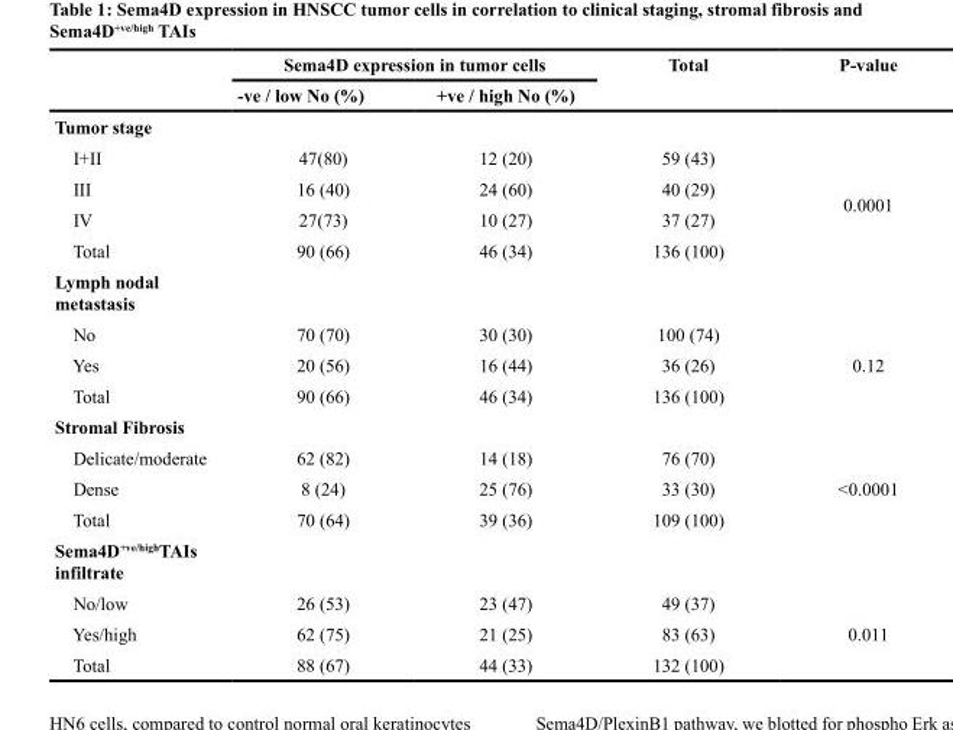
<table><thead><tr><td rowspan="2"></td><td colspan="2">Sema4D expression in tumor cells</td><td rowspan="2">Total</td><td rowspan="2">P-value</td></tr><tr><td>-ve / low No (%)</td><td>+ve / high No (%)</td></tr></thead><tbody><tr><td colspan="5">Tumor stage</td></tr><tr><td>I+II</td><td>47(80)</td><td>12 (20)</td><td>59 (43)</td><td rowspan="4">0.0001</td></tr><tr><td>III</td><td>16 (40)</td><td>24 (60)</td><td>40 (29)</td></tr><tr><td>IV</td><td>27(73)</td><td>10 (27)</td><td>37 (27)</td></tr><tr><td>Total</td><td>90 (66)</td><td>46 (34)</td><td>136 (100)</td></tr><tr><td colspan="5">Lymph nodal metastasis</td></tr><tr><td>No</td><td>70 (70)</td><td>30 (30)</td><td>100 (74)</td><td rowspan="3">0.12</td></tr><tr><td>Yes</td><td>20 (56)</td><td>16 (44)</td><td>36 (26)</td></tr><tr><td>Total</td><td>90 (66)</td><td>46 (34)</td><td>136 (100)</td></tr><tr><td colspan="5">Stromal Fibrosis</td></tr><tr><td>Delicate/moderate</td><td>62 (82)</td><td>14 (18)</td><td>76 (70)</td><td rowspan="3">&lt;0.0001</td></tr><tr><td>Dense</td><td>8 (24)</td><td>25 (76)</td><td>33 (30)</td></tr><tr><td>Total</td><td>70 (64)</td><td>39 (36)</td><td>109 (100)</td></tr><tr><td colspan="5">Sema4D<sup>+ve/high</sup>TAIs infiltrate</td></tr><tr><td>No/low</td><td>26 (53)</td><td>23 (47)</td><td>49 (37)</td><td rowspan="3">0.011</td></tr><tr><td>Yes/high</td><td>62 (75)</td><td>21 (25)</td><td>83 (63)</td></tr><tr><td>Total</td><td>88 (67)</td><td>44 (33)</td><td>132 (100)</td></tr></tbody></table>